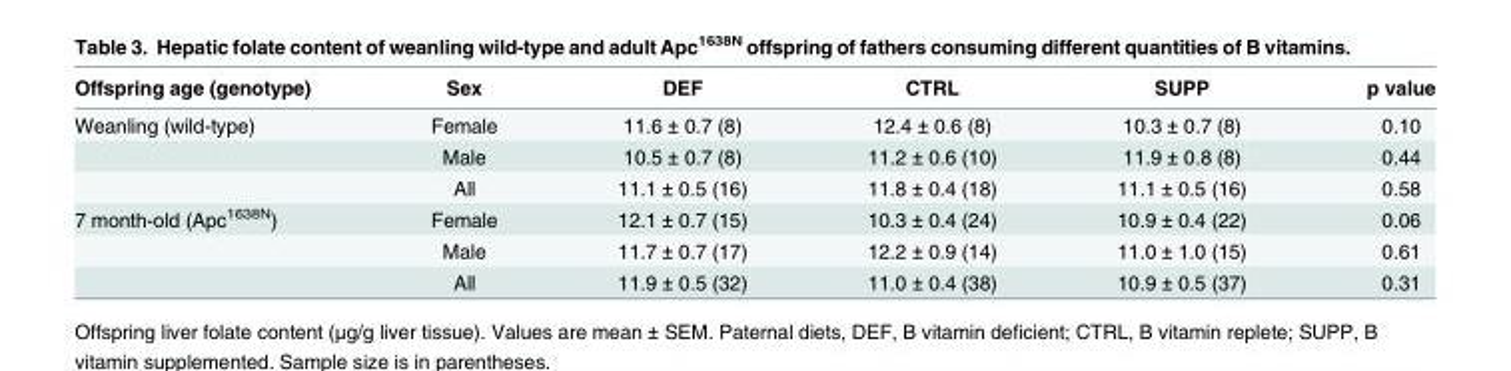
<table><thead><tr><td>Offspring age (genotype)</td><td>Sex</td><td>DEF</td><td>CTRL</td><td>SUPP</td><td>p value</td></tr></thead><tbody><tr><td rowspan="3">Weanling (wild-type)</td><td>Female</td><td>11.6 ± 0.7 (8)</td><td>12.4 ± 0.6 (8)</td><td>10.3 ± 0.7 (8)</td><td>0.10</td></tr><tr><td>Male</td><td>10.5 ± 0.7 (8)</td><td>11.2 ± 0.6 (10)</td><td>11.9 ± 0.8 (8)</td><td>0.44</td></tr><tr><td>All</td><td>11.1 ± 0.5 (16)</td><td>11.8 ± 0.4 (18)</td><td>11.1 ± 0.5 (16)</td><td>0.58</td></tr><tr><td rowspan="3">7 month-old (Apc<sup>1638N</sup>)</td><td>Female</td><td>12.1 ± 0.7 (15)</td><td>10.3 ± 0.4 (24)</td><td>10.9 ± 0.4 (22)</td><td>0.06</td></tr><tr><td>Male</td><td>11.7 ± 0.7 (17)</td><td>12.2 ± 0.9 (14)</td><td>11.0 ± 1.0 (15)</td><td>0.61</td></tr><tr><td>All</td><td>11.9 ± 0.5 (32)</td><td>11.0 ± 0.4 (38)</td><td>10.9 ± 0.5 (37)</td><td>0.31</td></tr></tbody></table>